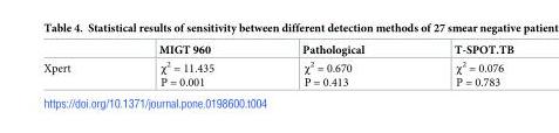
<table><thead><tr><td></td><td>MIGT 960</td><td>Pathological</td><td>T-SPOT.TB</td></tr></thead><tbody><tr><td>Xpert</td><td>χ<sup>2</sup> = 11.435 P = 0.001</td><td>χ<sup>2</sup> = 0.670 P = 0.413</td><td>χ<sup>2</sup> = 0.076 P = 0.783</td></tr></tbody></table>